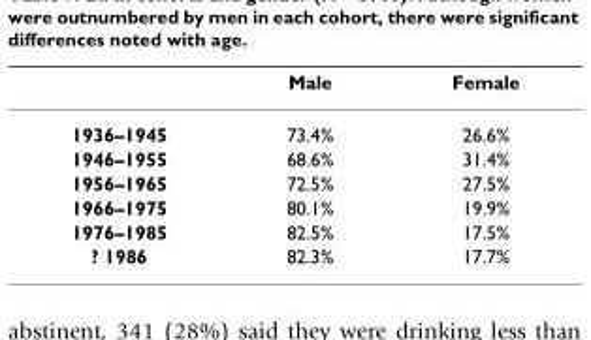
<table><thead><tr><td></td><td>Male</td><td>Female</td></tr></thead><tbody><tr><td>1936–1945</td><td>73.4%</td><td>26.6%</td></tr><tr><td>1946–1955</td><td>68.6%</td><td>31.4%</td></tr><tr><td>1956–1965</td><td>72.5%</td><td>27.5%</td></tr><tr><td>1966–1975</td><td>80.1%</td><td>19.9%</td></tr><tr><td>1976–1985</td><td>82.5%</td><td>17.5%</td></tr><tr><td>≥ 1986</td><td>82.3%</td><td>17.7%</td></tr></tbody></table>